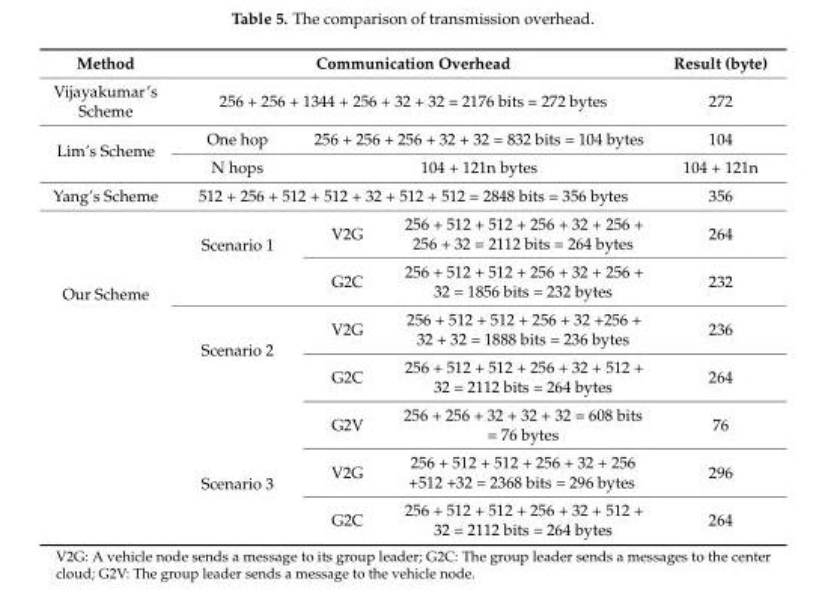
<table><thead><tr><td>Method</td><td colspan="3">Communication Overhead</td><td>Result (byte)</td></tr></thead><tbody><tr><td>Vijayakumar’s Scheme</td><td colspan="3">256 + 256 + 1344 + 256 + 32 + 32 = 2176 bits = 272 bytes</td><td>272</td></tr><tr><td rowspan="2">Lim’s Scheme</td><td>One hop</td><td colspan="2">256 + 256 + 256 + 32 + 32 = 832 bits = 104 bytes</td><td>104</td></tr><tr><td>N hops</td><td colspan="2">104 + 121n bytes</td><td>104 + 121n</td></tr><tr><td>Yang’s Scheme</td><td colspan="3">512 + 256 + 512 + 512 + 32 + 512 + 512 = 2848 bits = 356 bytes</td><td>356</td></tr><tr><td rowspan="7">Our Scheme</td><td rowspan="2">Scenario 1</td><td>V2G</td><td>256 + 512 + 512 + 256 + 32 + 256 + 256 + 32 = 2112 bits = 264 bytes</td><td>264</td></tr><tr><td>G2C</td><td>256 + 512 + 512 + 256 + 32 + 256 + 32 = 1856 bits = 232 bytes</td><td>232</td></tr><tr><td rowspan="3">Scenario 2</td><td>V2G</td><td>256 + 512 + 512 + 256 + 32 +256 + 32 + 32 = 1888 bits = 236 bytes</td><td>236</td></tr><tr><td>G2C</td><td>256 + 512 + 512 + 256 + 32 + 512 + 32 = 2112 bits = 264 bytes</td><td>264</td></tr><tr><td>G2V</td><td>256 + 256 + 32 + 32 + 32 = 608 bits = 76 bytes</td><td>76</td></tr><tr><td rowspan="2">Scenario 3</td><td>V2G</td><td>256 + 512 + 512 + 256 + 32 + 256 +512 +32 = 2368 bits = 296 bytes</td><td>296</td></tr><tr><td>G2C</td><td>256 + 512 + 512 + 256 + 32 + 512 + 32 = 2112 bits = 264 bytes</td><td>264</td></tr></tbody></table>